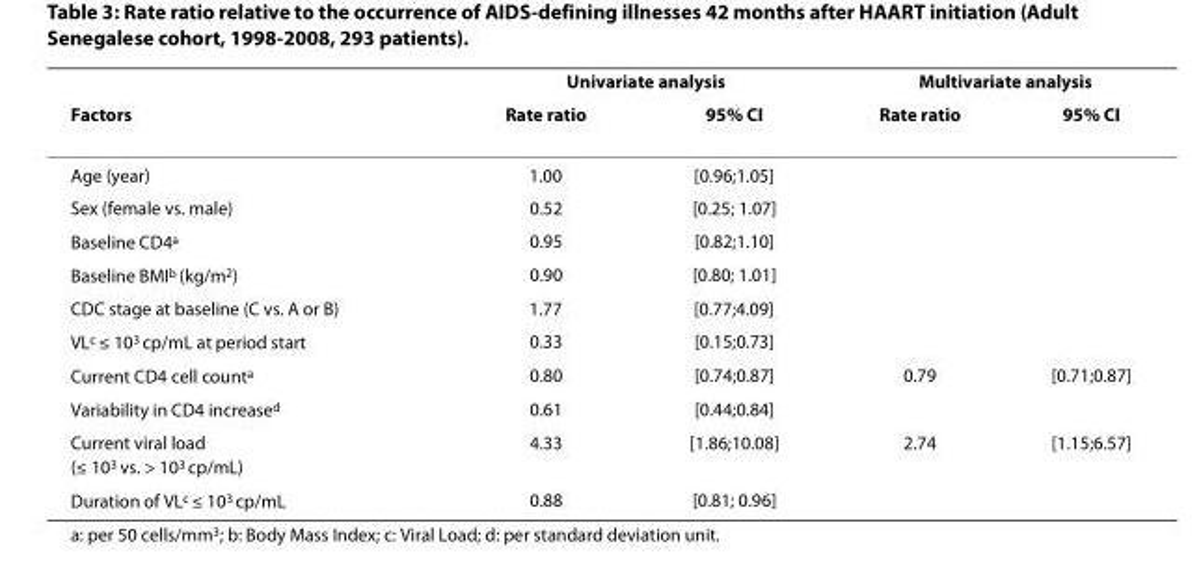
<table><thead><tr><td rowspan="2">Factors</td><td colspan="2">Univariate analysis</td><td colspan="2">Multivariate analysis</td></tr><tr><td>Rate ratio</td><td>95% CI</td><td>Rate ratio</td><td>95% CI</td></tr></thead><tbody><tr><td>Age (year)</td><td>1.00</td><td>[0.96;1.05]</td><td></td><td></td></tr><tr><td>Sex (female vs. male)</td><td>0.52</td><td>[0.25; 1.07]</td><td></td><td></td></tr><tr><td>Baseline CD4<sup>a</sup></td><td>0.95</td><td>[0.82;1.10]</td><td></td><td></td></tr><tr><td>Baseline BMI<sup>b</sup> (kg/m<sup>2</sup>)</td><td>0.90</td><td>[0.80; 1.01]</td><td></td><td></td></tr><tr><td>CDC stage at baseline (C vs. A or B)</td><td>1.77</td><td>[0.77;4.09]</td><td></td><td></td></tr><tr><td>VL<sup>c</sup> ≤ 10<sup>3</sup> cp/mL at period start</td><td>0.33</td><td>[0.15;0.73]</td><td></td><td></td></tr><tr><td>Current CD4 cell count<sup>a</sup></td><td>0.80</td><td>[0.74;0.87]</td><td>0.79</td><td>[0.71;0.87]</td></tr><tr><td>Variability in CD4 increase<sup>d</sup></td><td>0.61</td><td>[0.44;0.84]</td><td></td><td></td></tr><tr><td>Current viral load (≤ 10<sup>3</sup> vs. &gt; 10<sup>3</sup> cp/mL)</td><td>4.33</td><td>[1.86;10.08]</td><td>2.74</td><td>[1.15;6.57]</td></tr><tr><td>Duration of VL<sup>c</sup> ≤ 10<sup>3</sup> cp/mL</td><td>0.88</td><td>[0.81; 0.96]</td><td></td><td></td></tr></tbody></table>